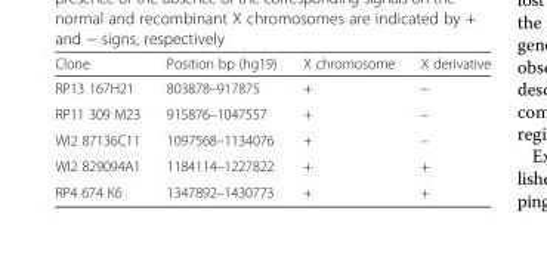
<table><thead><tr><td>Clone</td><td>Position bp (hg19)</td><td>X chromosome</td><td>X derivative</td></tr></thead><tbody><tr><td>RP13 167H21</td><td>803878–917875</td><td>+</td><td>–</td></tr><tr><td>RP11 309 M23</td><td>915876–1047557</td><td>+</td><td>–</td></tr><tr><td>WI2 87136C11</td><td>1097568–1134076</td><td>+</td><td>–</td></tr><tr><td>WI2 829094A1</td><td>1184114–1227822</td><td>+</td><td>+</td></tr><tr><td>RP4 674 K6</td><td>1347892–1430773</td><td>+</td><td>+</td></tr></tbody></table>